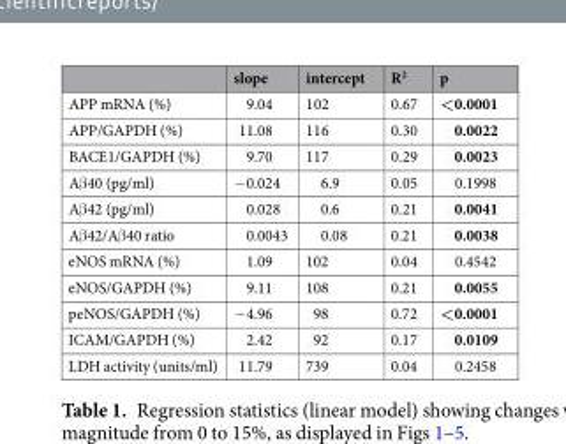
<table><thead><tr><td></td><td>slope</td><td>intercept</td><td>R<sup>2</sup></td><td>p</td></tr></thead><tbody><tr><td>APP mRNA (%)</td><td>9.04</td><td>102</td><td>0.67</td><td>&lt;0.0001</td></tr><tr><td>APP/GAPDH (%)</td><td>11.08</td><td>116</td><td>0.30</td><td>0.0022</td></tr><tr><td>BACE1/GAPDH (%)</td><td>9.70</td><td>117</td><td>0.29</td><td>0.0023</td></tr><tr><td>Aβ40 (pg/ml)</td><td>−0.024</td><td>6.9</td><td>0.05</td><td>0.1998</td></tr><tr><td>Aβ42 (pg/ml)</td><td>0.028</td><td>0.6</td><td>0.21</td><td>0.0041</td></tr><tr><td>Aβ42/Aβ40 ratio</td><td>0.0043</td><td>0.08</td><td>0.21</td><td>0.0038</td></tr><tr><td>eNOS mRNA (%)</td><td>1.09</td><td>102</td><td>0.04</td><td>0.4542</td></tr><tr><td>eNOS/GAPDH (%)</td><td>9.11</td><td>108</td><td>0.21</td><td>0.0055</td></tr><tr><td>peNOS/GAPDH (%)</td><td>−4.96</td><td>98</td><td>0.72</td><td>&lt;0.0001</td></tr><tr><td>ICAM/GAPDH (%)</td><td>2.42</td><td>92</td><td>0.17</td><td>0.0109</td></tr><tr><td>LDH activity (units/ml)</td><td>11.79</td><td>739</td><td>0.04</td><td>0.2458</td></tr></tbody></table>